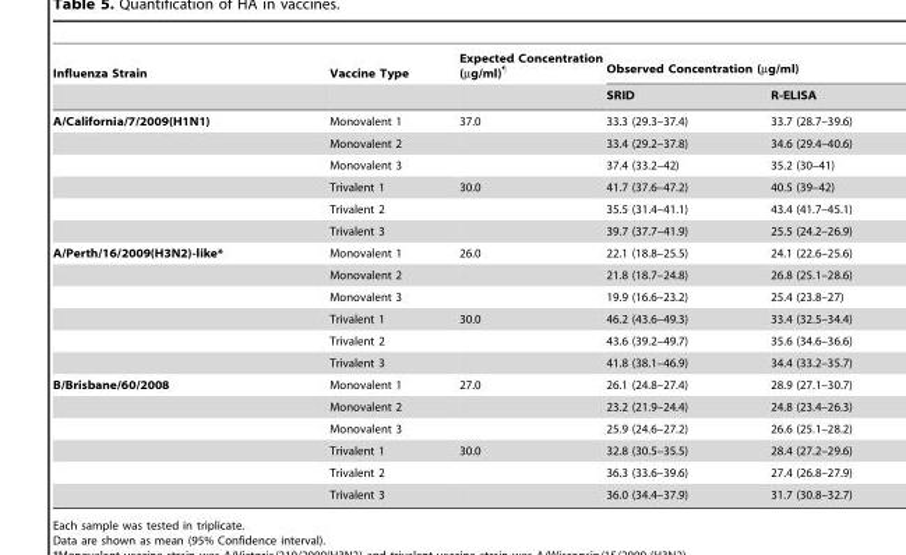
<table><thead><tr><td rowspan="2">Influenza Strain</td><td rowspan="2">Vaccine Type</td><td rowspan="2">Expected Concentration (µg/ml)¶</td><td colspan="2">Observed Concentration (µg/ml)</td></tr><tr><td>SRID</td><td>R-ELISA</td></tr></thead><tbody><tr><td rowspan="6">A/California/7/2009(H1N1)</td><td>Monovalent 1</td><td>37.0</td><td>33.3 (29.3–37.4)</td><td>33.7 (28.7–39.6)</td></tr><tr><td>Monovalent 2</td><td></td><td>33.4 (29.2–37.8)</td><td>34.6 (29.4–40.6)</td></tr><tr><td>Monovalent 3</td><td></td><td>37.4 (33.2–42)</td><td>35.2 (30–41)</td></tr><tr><td>Trivalent 1</td><td>30.0</td><td>41.7 (37.6–47.2)</td><td>40.5 (39–42)</td></tr><tr><td>Trivalent 2</td><td></td><td>35.5 (31.4–41.1)</td><td>43.4 (41.7–45.1)</td></tr><tr><td>Trivalent 3</td><td></td><td>39.7 (37.7–41.9)</td><td>25.5 (24.2–26.9)</td></tr><tr><td rowspan="6">A/Perth/16/2009(H3N2)-like*</td><td>Monovalent 1</td><td>26.0</td><td>22.1 (18.8–25.5)</td><td>24.1 (22.6–25.6)</td></tr><tr><td>Monovalent 2</td><td></td><td>21.8 (18.7–24.8)</td><td>26.8 (25.1–28.6)</td></tr><tr><td>Monovalent 3</td><td></td><td>19.9 (16.6–23.2)</td><td>25.4 (23.8–27)</td></tr><tr><td>Trivalent 1</td><td>30.0</td><td>46.2 (43.6–49.3)</td><td>33.4 (32.5–34.4)</td></tr><tr><td>Trivalent 2</td><td></td><td>43.6 (39.2–49.7)</td><td>35.6 (34.6–36.6)</td></tr><tr><td>Trivalent 3</td><td></td><td>41.8 (38.1–46.9)</td><td>34.4 (33.2–35.7)</td></tr><tr><td rowspan="6">B/Brisbane/60/2008</td><td>Monovalent 1</td><td>27.0</td><td>26.1 (24.8–27.4)</td><td>28.9 (27.1–30.7)</td></tr><tr><td>Monovalent 2</td><td></td><td>23.2 (21.9–24.4)</td><td>24.8 (23.4–26.3)</td></tr><tr><td>Monovalent 3</td><td></td><td>25.9 (24.6–27.2)</td><td>26.6 (25.1–28.2)</td></tr><tr><td>Trivalent 1</td><td>30.0</td><td>32.8 (30.5–35.5)</td><td>28.4 (27.2–29.6)</td></tr><tr><td>Trivalent 2</td><td></td><td>36.3 (33.6–39.6)</td><td>27.4 (26.8–27.9)</td></tr><tr><td>Trivalent 3</td><td></td><td>36.0 (34.4–37.9)</td><td>31.7 (30.8–32.7)</td></tr></tbody></table>